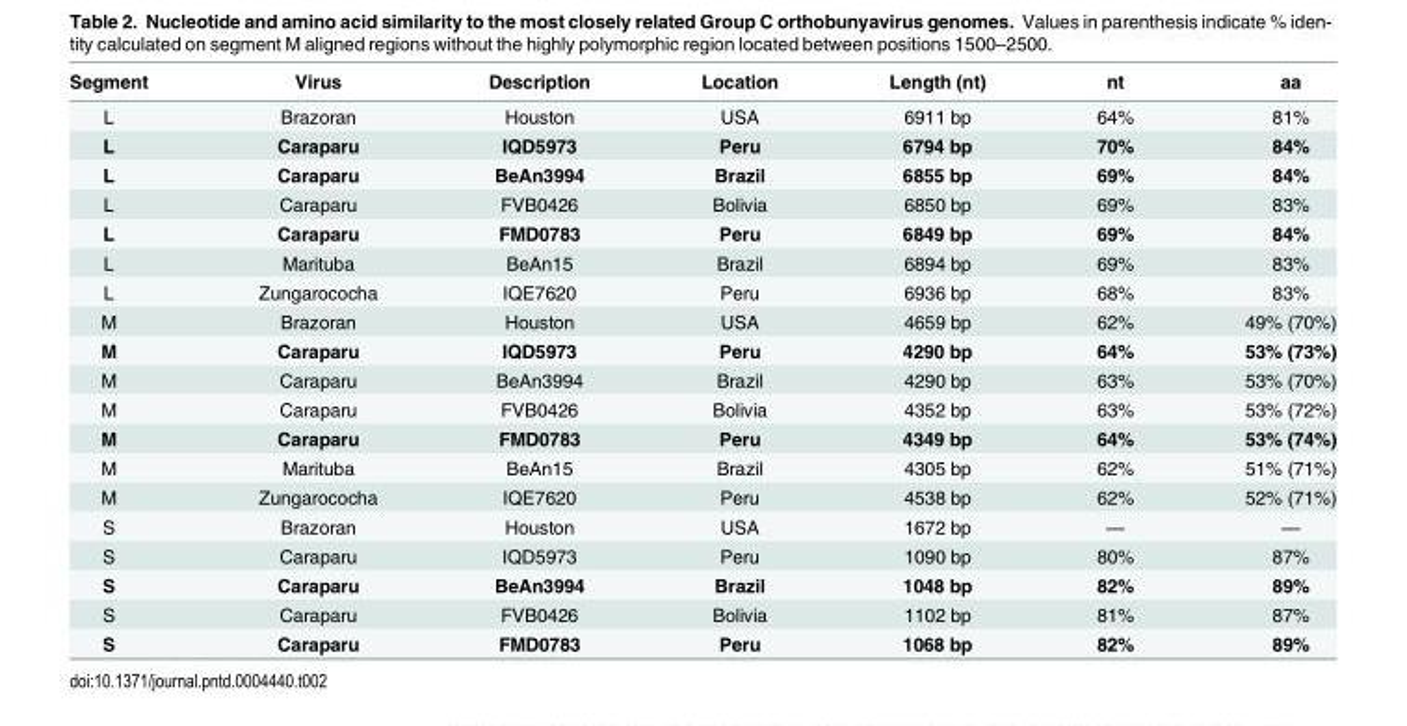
<table><thead><tr><td>Segment</td><td>Virus</td><td>Description</td><td>Location</td><td>Length (nt)</td><td>nt</td><td>aa</td></tr></thead><tbody><tr><td>L</td><td>Brazoran</td><td>Houston</td><td>USA</td><td>6911 bp</td><td>64%</td><td>81%</td></tr><tr><td>L</td><td>Caraparu</td><td>IQD5973</td><td>Peru</td><td>6794 bp</td><td>70%</td><td>84%</td></tr><tr><td>L</td><td>Caraparu</td><td>BeAn3994</td><td>Brazil</td><td>6855 bp</td><td>69%</td><td>84%</td></tr><tr><td>L</td><td>Caraparu</td><td>FVB0426</td><td>Bolivia</td><td>6850 bp</td><td>69%</td><td>83%</td></tr><tr><td>L</td><td>Caraparu</td><td>FMD0783</td><td>Peru</td><td>6849 bp</td><td>69%</td><td>84%</td></tr><tr><td>L</td><td>Marituba</td><td>BeAn15</td><td>Brazil</td><td>6894 bp</td><td>69%</td><td>83%</td></tr><tr><td>L</td><td>Zungarococha</td><td>IQE7620</td><td>Peru</td><td>6936 bp</td><td>68%</td><td>83%</td></tr><tr><td>M</td><td>Brazoran</td><td>Houston</td><td>USA</td><td>4659 bp</td><td>62%</td><td>49% (70%)</td></tr><tr><td>M</td><td>Caraparu</td><td>IQD5973</td><td>Peru</td><td>4290 bp</td><td>64%</td><td>53% (73%)</td></tr><tr><td>M</td><td>Caraparu</td><td>BeAn3994</td><td>Brazil</td><td>4290 bp</td><td>63%</td><td>53% (70%)</td></tr><tr><td>M</td><td>Caraparu</td><td>FVB0426</td><td>Bolivia</td><td>4352 bp</td><td>63%</td><td>53% (72%)</td></tr><tr><td>M</td><td>Caraparu</td><td>FMD0783</td><td>Peru</td><td>4349 bp</td><td>64%</td><td>53% (74%)</td></tr><tr><td>M</td><td>Marituba</td><td>BeAn15</td><td>Brazil</td><td>4305 bp</td><td>62%</td><td>51% (71%)</td></tr><tr><td>M</td><td>Zungarococha</td><td>IQE7620</td><td>Peru</td><td>4538 bp</td><td>62%</td><td>52% (71%)</td></tr><tr><td>S</td><td>Brazoran</td><td>Houston</td><td>USA</td><td>1672 bp</td><td>—</td><td>—</td></tr><tr><td>S</td><td>Caraparu</td><td>IQD5973</td><td>Peru</td><td>1090 bp</td><td>80%</td><td>87%</td></tr><tr><td>S</td><td>Caraparu</td><td>BeAn3994</td><td>Brazil</td><td>1048 bp</td><td>82%</td><td>89%</td></tr><tr><td>S</td><td>Caraparu</td><td>FVB0426</td><td>Bolivia</td><td>1102 bp</td><td>81%</td><td>87%</td></tr><tr><td>S</td><td>Caraparu</td><td>FMD0783</td><td>Peru</td><td>1068 bp</td><td>82%</td><td>89%</td></tr></tbody></table>